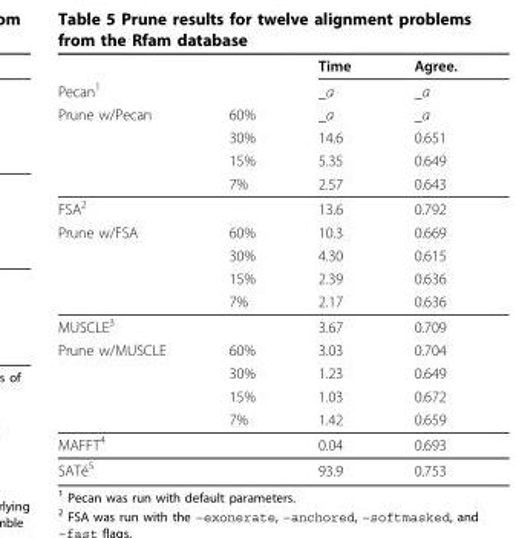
<table><thead><tr><td rowspan="6">Pecan<sup>1</sup> Prune w/Pecan</td><td rowspan="6">60% 30% 15% 7%</td><td rowspan="6">Time _a _a 14.6 5.35 2.57</td><td rowspan="6">Agree. _a _a 0.651 0.649 0.643</td></tr><tr></tr><tr></tr><tr></tr><tr></tr><tr></tr></thead><tbody><tr><td>FSA<sup>2</sup></td><td></td><td>13.6</td><td>0.792</td></tr><tr><td rowspan="4">Prune w/FSA</td><td>60%</td><td>10.3</td><td>0.669</td></tr><tr><td>30%</td><td>4.30</td><td>0.615</td></tr><tr><td>15%</td><td>2.39</td><td>0.636</td></tr><tr><td>7%</td><td>2.17</td><td>0.636</td></tr><tr><td>MUSCLE3</td><td></td><td>3.67</td><td>0.709</td></tr><tr><td rowspan="4">Prune w/MUSCLE</td><td>60%</td><td>3.03</td><td>0.704</td></tr><tr><td>30%</td><td>1.23</td><td>0.649</td></tr><tr><td>15%</td><td>1.03</td><td>0.672</td></tr><tr><td>7%</td><td>1.42</td><td>0.659</td></tr><tr><td>MAFFT4</td><td></td><td>0.04</td><td>0.693</td></tr><tr><td>SATé5</td><td></td><td>93.9</td><td>0.753</td></tr></tbody></table>